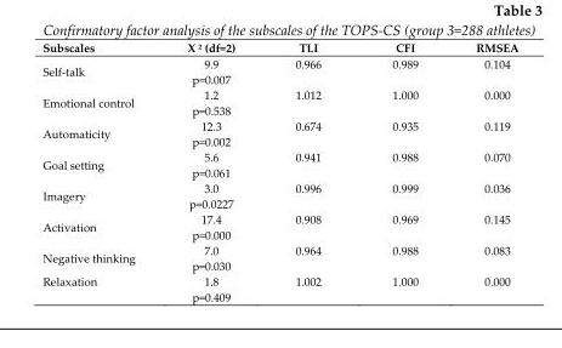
<table><thead><tr><td>Subscales</td><td>Χ ² (df=2)</td><td>TLI</td><td>CFI</td><td>RMSEA</td></tr></thead><tbody><tr><td>Self-talk</td><td>9.9 p=0.007</td><td>0.966</td><td>0.989</td><td>0.104</td></tr><tr><td>Emotional control</td><td>1.2 p=0.538</td><td>1.012</td><td>1.000</td><td>0.000</td></tr><tr><td>Automaticity</td><td>12.3 p=0.002</td><td>0.674</td><td>0.935</td><td>0.119</td></tr><tr><td>Goal setting</td><td>5.6 p=0.061</td><td>0.941</td><td>0.988</td><td>0.070</td></tr><tr><td>Imagery</td><td>3.0 p=0.0227</td><td>0.996</td><td>0.999</td><td>0.036</td></tr><tr><td>Activation</td><td>17.4 p=0.000</td><td>0.908</td><td>0.969</td><td>0.145</td></tr><tr><td>Negative thinking</td><td>7.0 p=0.030</td><td>0.964</td><td>0.988</td><td>0.083</td></tr><tr><td>Relaxation</td><td>1.8 p=0.409</td><td>1.002</td><td>1.000</td><td>0.000</td></tr></tbody></table>